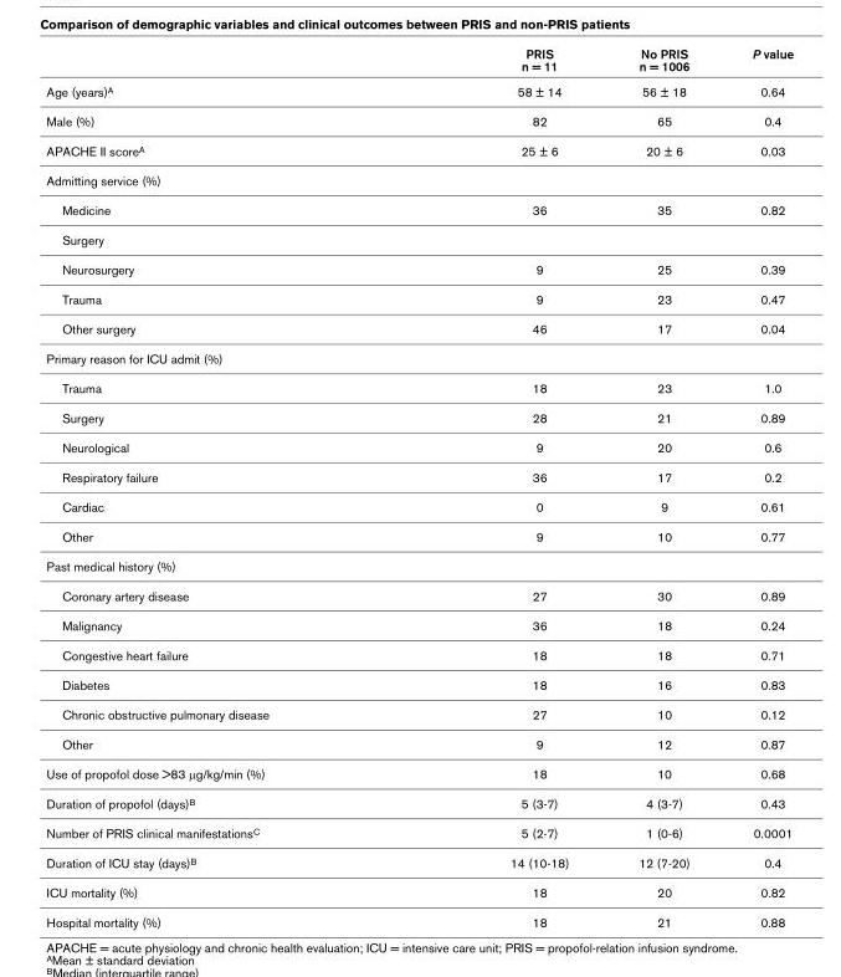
<table><thead><tr><td></td><td>PRIS n = 11</td><td>No PRIS n = 1006</td><td>P value</td></tr></thead><tbody><tr><td>Age (years)<sup>A</sup></td><td>58 ± 14</td><td>56 ± 18</td><td>0.64</td></tr><tr><td>Male (%)</td><td>82</td><td>65</td><td>0.4</td></tr><tr><td>APACHE II score<sup>A</sup></td><td>25 ± 6</td><td>20 ± 6</td><td>0.03</td></tr><tr><td colspan="4">Admitting service (%)</td></tr><tr><td>Medicine</td><td>36</td><td>35</td><td>0.82</td></tr><tr><td colspan="4">Surgery</td></tr><tr><td>Neurosurgery</td><td>9</td><td>25</td><td>0.39</td></tr><tr><td>Trauma</td><td>9</td><td>23</td><td>0.47</td></tr><tr><td>Other surgery</td><td>46</td><td>17</td><td>0.04</td></tr><tr><td colspan="4">Primary reason for ICU admit (%)</td></tr><tr><td>Trauma</td><td>18</td><td>23</td><td>1.0</td></tr><tr><td>Surgery</td><td>28</td><td>21</td><td>0.89</td></tr><tr><td>Neurological</td><td>9</td><td>20</td><td>0.6</td></tr><tr><td>Respiratory failure</td><td>36</td><td>17</td><td>0.2</td></tr><tr><td>Cardiac</td><td>0</td><td>9</td><td>0.61</td></tr><tr><td>Other</td><td>9</td><td>10</td><td>0.77</td></tr><tr><td colspan="4">Past medical history (%)</td></tr><tr><td>Coronary artery disease</td><td>27</td><td>30</td><td>0.89</td></tr><tr><td>Malignancy</td><td>36</td><td>18</td><td>0.24</td></tr><tr><td>Congestive heart failure</td><td>18</td><td>18</td><td>0.71</td></tr><tr><td>Diabetes</td><td>18</td><td>16</td><td>0.83</td></tr><tr><td>Chronic obstructive pulmonary disease</td><td>27</td><td>10</td><td>0.12</td></tr><tr><td>Other</td><td>9</td><td>12</td><td>0.87</td></tr><tr><td>Use of propofol dose &gt;83 μg/kg/min (%)</td><td>18</td><td>10</td><td>0.68</td></tr><tr><td>Duration of propofol (days)<sup>B</sup></td><td>5 (3-7)</td><td>4 (3-7)</td><td>0.43</td></tr><tr><td>Number of PRIS clinical manifestations<sup>C</sup></td><td>5 (2-7)</td><td>1 (0-6)</td><td>0.0001</td></tr><tr><td>Duration of ICU stay (days)<sup>B</sup></td><td>14 (10-18)</td><td>12 (7-20)</td><td>0.4</td></tr><tr><td>ICU mortality (%)</td><td>18</td><td>20</td><td>0.82</td></tr><tr><td>Hospital mortality (%)</td><td>18</td><td>21</td><td>0.88</td></tr></tbody></table>